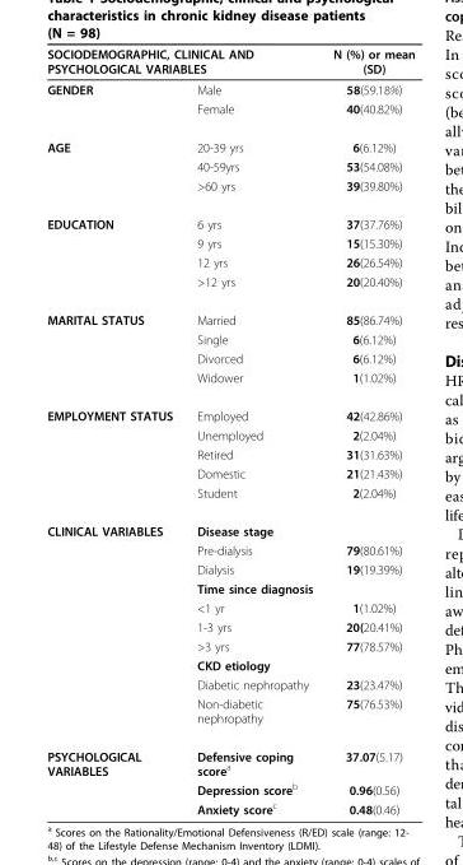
<table><thead><tr><td colspan="2">SOCIODEMOGRAPHIC, CLINICAL AND PSYCHOLOGICAL VARIABLES</td><td rowspan="2">N (%) or mean (SD) 58(59.18%)</td></tr><tr><td>GENDER</td><td>Male</td></tr></thead><tbody><tr><td></td><td>Female</td><td>40(40.82%)</td></tr><tr><td rowspan="3">AGE</td><td>20-39 yrs</td><td>6(6.12%)</td></tr><tr><td>40-59yrs</td><td>53(54.08%)</td></tr><tr><td>&gt;60 yrs</td><td>39(39.80%)</td></tr><tr><td rowspan="4">EDUCATION</td><td>6 yrs</td><td>37(37.76%)</td></tr><tr><td>9 yrs</td><td>15(15.30%)</td></tr><tr><td>12 yrs</td><td>26(26.54%)</td></tr><tr><td>&gt;12 yrs</td><td>20(20.40%)</td></tr><tr><td rowspan="4">MARITAL STATUS</td><td>Married</td><td>85(86.74%)</td></tr><tr><td>Single</td><td>6(6.12%)</td></tr><tr><td>Divorced</td><td>6(6.12%)</td></tr><tr><td>Widower</td><td>1(1.02%)</td></tr><tr><td rowspan="5">EMPLOYMENT STATUS</td><td>Employed</td><td>42(42.86%)</td></tr><tr><td>Unemployed</td><td>2(2.04%)</td></tr><tr><td>Retired</td><td>31(31.63%)</td></tr><tr><td>Domestic</td><td>21(21.43%)</td></tr><tr><td>Student</td><td>2(2.04%)</td></tr><tr><td rowspan="10">CLINICAL VARIABLES</td><td>Disease stage</td><td></td></tr><tr><td>Pre-dialysis</td><td>79(80.61%)</td></tr><tr><td>Dialysis</td><td>19(19.39%)</td></tr><tr><td>Time since diagnosis</td><td></td></tr><tr><td>&lt;1 yr</td><td>1(1.02%)</td></tr><tr><td>1-3 yrs</td><td>20(20.41%)</td></tr><tr><td>&gt;3 yrs</td><td>77(78.57%)</td></tr><tr><td>CKD etiology</td><td></td></tr><tr><td>Diabetic nephropathy</td><td>23(23.47%)</td></tr><tr><td>Non-diabetic nephropathy</td><td>75(76.53%)</td></tr><tr><td rowspan="3">PSYCHOLOGICAL VARIABLES</td><td>Defensive coping score<sup>a</sup></td><td>37.07(5.17)</td></tr><tr><td>Depression score<sup>b</sup></td><td>0.96(0.56)</td></tr><tr><td>Anxiety score<sup>c</sup></td><td>0.48(0.46)</td></tr></tbody></table>